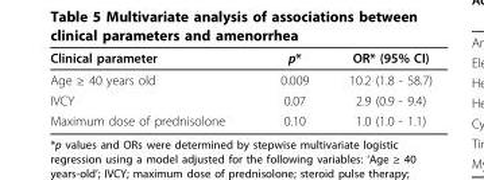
<table><thead><tr><td>Clinical parameter</td><td>p*</td><td>OR* (95% CI)</td></tr></thead><tbody><tr><td>Age ≥ 40 years old</td><td>0.009</td><td>10.2 (1.8 - 58.7)</td></tr><tr><td>IVCY</td><td>0.07</td><td>2.9 (0.9 - 9.4)</td></tr><tr><td>Maximum dose of prednisolone</td><td>0.10</td><td>1.0 (1.0 - 1.1)</td></tr></tbody></table>